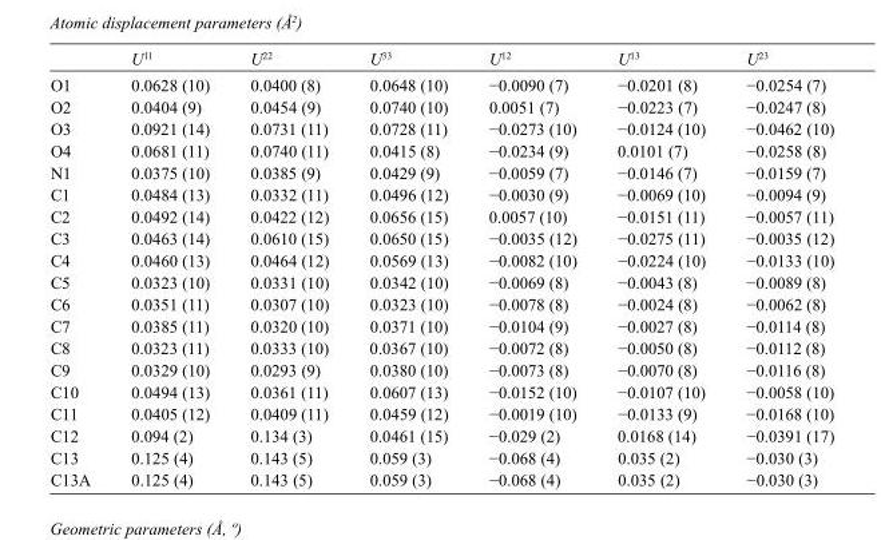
<table><thead><tr><td></td><td>U<sup>11</sup></td><td>U<sup>22</sup></td><td>U<sup>33</sup></td><td>U<sup>12</sup></td><td>U<sup>13</sup></td><td>U<sup>23</sup></td></tr></thead><tbody><tr><td>O1</td><td>0.0628 (10)</td><td>0.0400 (8)</td><td>0.0648 (10)</td><td>−0.0090 (7)</td><td>−0.0201 (8)</td><td>−0.0254 (7)</td></tr><tr><td>O2</td><td>0.0404 (9)</td><td>0.0454 (9)</td><td>0.0740 (10)</td><td>0.0051 (7)</td><td>−0.0223 (7)</td><td>−0.0247 (8)</td></tr><tr><td>O3</td><td>0.0921 (14)</td><td>0.0731 (11)</td><td>0.0728 (11)</td><td>−0.0273 (10)</td><td>−0.0124 (10)</td><td>−0.0462 (10)</td></tr><tr><td>O4</td><td>0.0681 (11)</td><td>0.0740 (11)</td><td>0.0415 (8)</td><td>−0.0234 (9)</td><td>0.0101 (7)</td><td>−0.0258 (8)</td></tr><tr><td>N1</td><td>0.0375 (10)</td><td>0.0385 (9)</td><td>0.0429 (9)</td><td>−0.0059 (7)</td><td>−0.0146 (7)</td><td>−0.0159 (7)</td></tr><tr><td>C1</td><td>0.0484 (13)</td><td>0.0332 (11)</td><td>0.0496 (12)</td><td>−0.0030 (9)</td><td>−0.0069 (10)</td><td>−0.0094 (9)</td></tr><tr><td>C2</td><td>0.0492 (14)</td><td>0.0422 (12)</td><td>0.0656 (15)</td><td>0.0057 (10)</td><td>−0.0151 (11)</td><td>−0.0057 (11)</td></tr><tr><td>C3</td><td>0.0463 (14)</td><td>0.0610 (15)</td><td>0.0650 (15)</td><td>−0.0035 (12)</td><td>−0.0275 (11)</td><td>−0.0035 (12)</td></tr><tr><td>C4</td><td>0.0460 (13)</td><td>0.0464 (12)</td><td>0.0569 (13)</td><td>−0.0082 (10)</td><td>−0.0224 (10)</td><td>−0.0133 (10)</td></tr><tr><td>C5</td><td>0.0323 (10)</td><td>0.0331 (10)</td><td>0.0342 (10)</td><td>−0.0069 (8)</td><td>−0.0043 (8)</td><td>−0.0089 (8)</td></tr><tr><td>C6</td><td>0.0351 (11)</td><td>0.0307 (10)</td><td>0.0323 (10)</td><td>−0.0078 (8)</td><td>−0.0024 (8)</td><td>−0.0062 (8)</td></tr><tr><td>C7</td><td>0.0385 (11)</td><td>0.0320 (10)</td><td>0.0371 (10)</td><td>−0.0104 (9)</td><td>−0.0027 (8)</td><td>−0.0114 (8)</td></tr><tr><td>C8</td><td>0.0323 (11)</td><td>0.0333 (10)</td><td>0.0367 (10)</td><td>−0.0072 (8)</td><td>−0.0050 (8)</td><td>−0.0112 (8)</td></tr><tr><td>C9</td><td>0.0329 (10)</td><td>0.0293 (9)</td><td>0.0380 (10)</td><td>−0.0073 (8)</td><td>−0.0070 (8)</td><td>−0.0116 (8)</td></tr><tr><td>C10</td><td>0.0494 (13)</td><td>0.0361 (11)</td><td>0.0607 (13)</td><td>−0.0152 (10)</td><td>−0.0107 (10)</td><td>−0.0058 (10)</td></tr><tr><td>C11</td><td>0.0405 (12)</td><td>0.0409 (11)</td><td>0.0459 (12)</td><td>−0.0019 (10)</td><td>−0.0133 (9)</td><td>−0.0168 (10)</td></tr><tr><td>C12</td><td>0.094 (2)</td><td>0.134 (3)</td><td>0.0461 (15)</td><td>−0.029 (2)</td><td>0.0168 (14)</td><td>−0.0391 (17)</td></tr><tr><td>C13</td><td>0.125 (4)</td><td>0.143 (5)</td><td>0.059 (3)</td><td>−0.068 (4)</td><td>0.035 (2)</td><td>−0.030 (3)</td></tr><tr><td>C13A</td><td>0.125 (4)</td><td>0.143 (5)</td><td>0.059 (3)</td><td>−0.068 (4)</td><td>0.035 (2)</td><td>−0.030 (3)</td></tr></tbody></table>